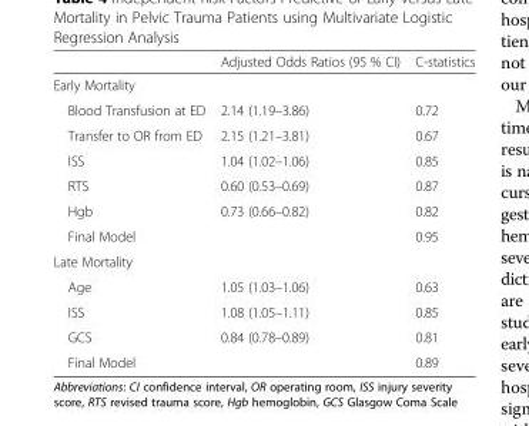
<table><thead><tr><td></td><td>Adjusted Odds Ratios (95 % CI)</td><td>C-statistics</td></tr></thead><tbody><tr><td colspan="3">Early Mortality</td></tr><tr><td>Blood Transfusion at ED</td><td>2.14 (1.19–3.86)</td><td>0.72</td></tr><tr><td>Transfer to OR from ED</td><td>2.15 (1.21–3.81)</td><td>0.67</td></tr><tr><td>ISS</td><td>1.04 (1.02–1.06)</td><td>0.85</td></tr><tr><td>RTS</td><td>0.60 (0.53–0.69)</td><td>0.87</td></tr><tr><td>Hgb</td><td>0.73 (0.66–0.82)</td><td>0.82</td></tr><tr><td>Final Model</td><td></td><td>0.95</td></tr><tr><td colspan="3">Late Mortality</td></tr><tr><td>Age</td><td>1.05 (1.03–1.06)</td><td>0.63</td></tr><tr><td>ISS</td><td>1.08 (1.05–1.11)</td><td>0.85</td></tr><tr><td>GCS</td><td>0.84 (0.78–0.89)</td><td>0.81</td></tr><tr><td>Final Model</td><td></td><td>0.89</td></tr></tbody></table>